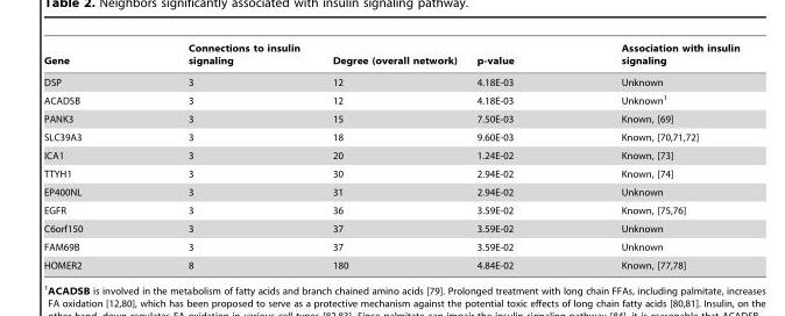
<table><thead><tr><td>Gene</td><td>Connections to insulin signaling</td><td>Degree (overall network)</td><td>p-value</td><td>Association with insulin signaling</td></tr></thead><tbody><tr><td>DSP</td><td>3</td><td>12</td><td>4.18E-03</td><td>Unknown</td></tr><tr><td>ACADSB</td><td>3</td><td>12</td><td>4.18E-03</td><td>Unknown<sup>1</sup></td></tr><tr><td>PANK3</td><td>3</td><td>15</td><td>7.50E-03</td><td>Known, [69]</td></tr><tr><td>SLC39A3</td><td>3</td><td>18</td><td>9.60E-03</td><td>Known, [70,71,72]</td></tr><tr><td>ICA1</td><td>3</td><td>20</td><td>1.24E-02</td><td>Known, [73]</td></tr><tr><td>TTYH1</td><td>3</td><td>30</td><td>2.94E-02</td><td>Known, [74]</td></tr><tr><td>EP400NL</td><td>3</td><td>31</td><td>2.94E-02</td><td>Unknown</td></tr><tr><td>EGFR</td><td>3</td><td>36</td><td>3.59E-02</td><td>Known, [75,76]</td></tr><tr><td>C6orf150</td><td>3</td><td>37</td><td>3.59E-02</td><td>Unknown</td></tr><tr><td>FAM69B</td><td>3</td><td>37</td><td>3.59E-02</td><td>Unknown</td></tr><tr><td>HOMER2</td><td>8</td><td>180</td><td>4.84E-02</td><td>Known, [77,78]</td></tr></tbody></table>